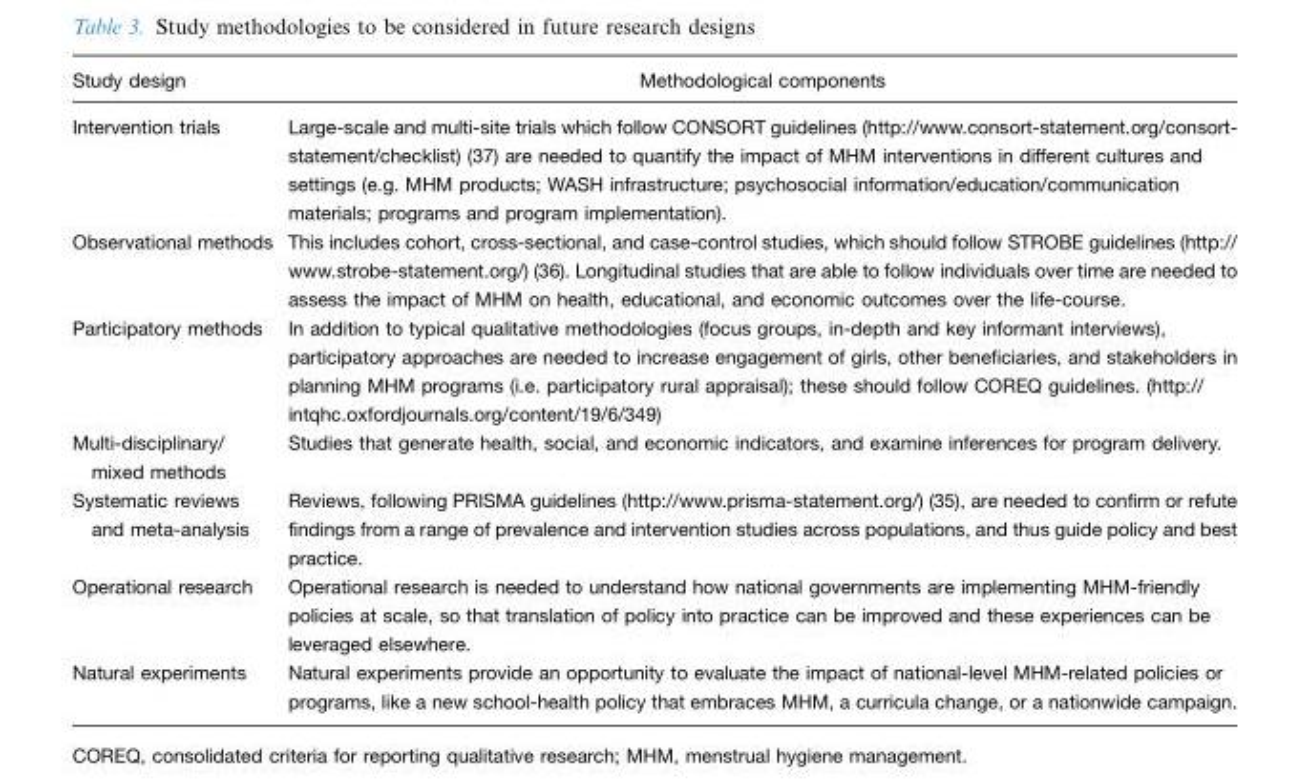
<table><thead><tr><td>Study design</td><td>Methodological components</td></tr></thead><tbody><tr><td>Intervention trials</td><td>Large-scale and multi-site trials which follow CONSORT guidelines (http://www.consort-statement.org/consort- statement/checklist) (37) are needed to quantify the impact of MHM interventions in different cultures and settings (e.g. MHM products; WASH infrastructure; psychosocial information/education/communication materials; programs and program implementation).</td></tr><tr><td>Observational methods</td><td>This includes cohort, cross-sectional, and case-control studies, which should follow STROBE guidelines (http:// www.strobe-statement.org/) (36). Longitudinal studies that are able to follow individuals over time are needed to assess the impact of MHM on health, educational, and economic outcomes over the life-course.</td></tr><tr><td>Participatory methods</td><td>In addition to typical qualitative methodologies (focus groups, in-depth and key informant interviews), participatory approaches are needed to increase engagement of girls, other beneficiaries, and stakeholders in planning MHM programs (i.e. participatory rural appraisal); these should follow COREQ guidelines. (http:// intqhc.oxfordjournals.org/content/19/6/349)</td></tr><tr><td>Multi-disciplinary/ mixed methods</td><td>Studies that generate health, social, and economic indicators, and examine inferences for program delivery.</td></tr><tr><td>Systematic reviews and meta-analysis</td><td>Reviews, following PRISMA guidelines (http://www.prisma-statement.org/) (35), are needed to confirm or refute findings from a range of prevalence and intervention studies across populations, and thus guide policy and best practice.</td></tr><tr><td>Operational research</td><td>Operational research is needed to understand how national governments are implementing MHM-friendly policies at scale, so that translation of policy into practice can be improved and these experiences can be leveraged elsewhere.</td></tr><tr><td>Natural experiments</td><td>Natural experiments provide an opportunity to evaluate the impact of national-level MHM-related policies or programs, like a new school-health policy that embraces MHM, a curricula change, or a nationwide campaign.</td></tr></tbody></table>